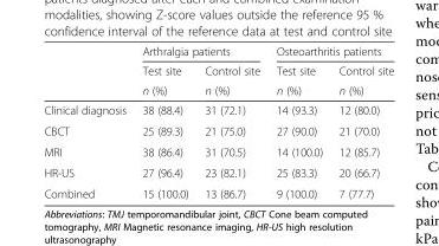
<table><thead><tr><td rowspan="3"></td><td colspan="2">Arthralgia patients</td><td colspan="2">Osteoarthritis patients</td></tr><tr><td rowspan="2">Test site n (%)</td><td rowspan="2">Control site n (%)</td><td rowspan="2">Test site n (%)</td><td rowspan="2">Control site n (%)</td></tr><tr></tr></thead><tbody><tr><td>Clinical diagnosis</td><td>38 (88.4)</td><td>31 (72.1)</td><td>14 (93.3)</td><td>12 (80.0)</td></tr><tr><td>CBCT</td><td>25 (89.3)</td><td>21 (75.0)</td><td>27 (90.0)</td><td>21 (70.0)</td></tr><tr><td>MRI</td><td>38 (86.4)</td><td>31 (70.5)</td><td>14 (100.0)</td><td>12 (85.7)</td></tr><tr><td>HR-US</td><td>27 (96.4)</td><td>23 (82.1)</td><td>25 (83.3)</td><td>20 (66.7)</td></tr><tr><td>Combined</td><td>15 (100.0)</td><td>13 (86.7)</td><td>9 (100.0)</td><td>7 (77.7)</td></tr></tbody></table>